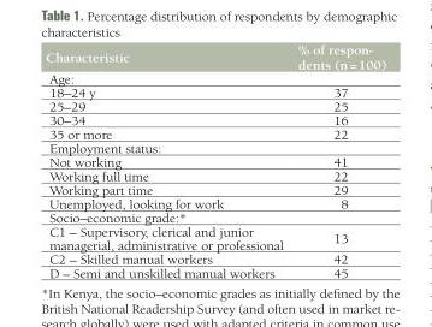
<table><thead><tr><td>Characteristic</td><td>% of respon- dents (n = 100)</td></tr></thead><tbody><tr><td colspan="2">Age:</td></tr><tr><td>18–24 y</td><td>37</td></tr><tr><td>25–29</td><td>25</td></tr><tr><td>30–34</td><td>16</td></tr><tr><td>35 or more</td><td>22</td></tr><tr><td colspan="2">Employment status:</td></tr><tr><td>Not working</td><td>41</td></tr><tr><td>Working full time</td><td>22</td></tr><tr><td>Working part time</td><td>29</td></tr><tr><td>Unemployed, looking for work</td><td>8</td></tr><tr><td colspan="2">Socio–economic grade:*</td></tr><tr><td>C1 – Supervisory, clerical and junior managerial, administrative or professional</td><td>13</td></tr><tr><td>C2 – Skilled manual workers</td><td>42</td></tr><tr><td>D – Semi and unskilled manual workers</td><td>45</td></tr></tbody></table>